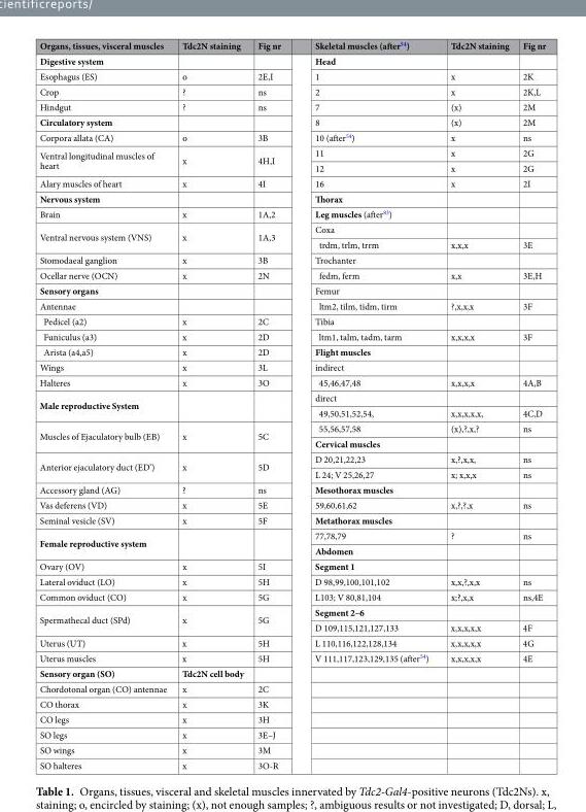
<table><thead><tr><td>Organs, tissues, visceral muscles</td><td>Tdc2N staining</td><td>Fig nr</td><td>Skeletal muscles (after<sup>54</sup>)</td><td>Tdc2N staining</td><td>Fig nr</td></tr></thead><tbody><tr><td>Digestive system</td><td></td><td></td><td>Head</td><td></td><td></td></tr><tr><td>Esophagus (ES)</td><td>o</td><td>2E,I</td><td>1</td><td>x</td><td>2K</td></tr><tr><td>Crop</td><td>?</td><td>ns</td><td>2</td><td>x</td><td>2K,L</td></tr><tr><td>Hindgut</td><td>?</td><td>ns</td><td>7</td><td>(x)</td><td>2M</td></tr><tr><td>Circulatory system</td><td></td><td></td><td>8</td><td>(x)</td><td>2M</td></tr><tr><td>Corpora allata (CA)</td><td>o</td><td>3B</td><td>10 (after<sup>54</sup>)</td><td>x</td><td>ns</td></tr><tr><td rowspan="2">Ventral longitudinal muscles of heart</td><td rowspan="2">x</td><td rowspan="2">4H,I</td><td>11</td><td>x</td><td>2G</td></tr><tr><td>12</td><td>x</td><td>2G</td></tr><tr><td>Alary muscles of heart</td><td>x</td><td>4I</td><td>16</td><td>x</td><td>2I</td></tr><tr><td>Nervous system</td><td></td><td></td><td>Thorax</td><td></td><td></td></tr><tr><td>Brain</td><td>x</td><td>1A,2</td><td>Leg muscles (after<sup>83</sup>)</td><td></td><td></td></tr><tr><td rowspan="2">Ventral nervous system (VNS)</td><td rowspan="2">x</td><td rowspan="2">1A,3</td><td>Coxa</td><td></td><td></td></tr><tr><td>trdm, trlm, trrm</td><td>x,x,x</td><td>3E</td></tr><tr><td>Stomodaeal ganglion</td><td>x</td><td>3B</td><td>Trochanter</td><td></td><td></td></tr><tr><td>Ocellar nerve (OCN)</td><td>x</td><td>2N</td><td>fedm, ferm</td><td>x,x</td><td>3E,H</td></tr><tr><td>Sensory organs</td><td></td><td></td><td>Femur</td><td></td><td></td></tr><tr><td>Antennae</td><td></td><td></td><td>ltm2, tilm, tidm, tirm</td><td>?,x,x,x</td><td>3F</td></tr><tr><td>Pedicel (a2)</td><td>x</td><td>2C</td><td>Tibia</td><td></td><td></td></tr><tr><td>Funiculus (a3)</td><td>x</td><td>2D</td><td>ltm1, talm, tadm, tarm</td><td>x,x,x,x</td><td>3F</td></tr><tr><td>Arista (a4,a5)</td><td>x</td><td>2D</td><td>Flight muscles</td><td></td><td></td></tr><tr><td>Wings</td><td>x</td><td>3L</td><td>indirect</td><td></td><td></td></tr><tr><td>Halteres</td><td>x</td><td>3O</td><td>45,46,47,48</td><td>x,x,x,x</td><td>4A,B</td></tr><tr><td rowspan="2">Male reproductive System</td><td rowspan="2"></td><td rowspan="2"></td><td>direct</td><td></td><td></td></tr><tr><td>49,50,51,52,54,</td><td>x,x,x,x,x,</td><td>4C,D</td></tr><tr><td rowspan="2">Muscles of Ejaculatory bulb (EB)</td><td rowspan="2">x</td><td rowspan="2">5C</td><td>55,56,57,58</td><td>(x),?,x,?</td><td>ns</td></tr><tr><td>Cervical muscles</td><td></td><td></td></tr><tr><td rowspan="2">Anterior ejaculatory duct (ED’)</td><td rowspan="2">x</td><td rowspan="2">5D</td><td>D 20,21,22,23</td><td>x,?,x,x,</td><td>ns</td></tr><tr><td>L 24; V 25,26,27</td><td>x; x,x,x</td><td>ns</td></tr><tr><td>Accessory gland (AG)</td><td>?</td><td>ns</td><td>Mesothorax muscles</td><td></td><td></td></tr><tr><td>Vas deferens (VD)</td><td>x</td><td>5E</td><td>59,60,61,62</td><td>x,?,?,x</td><td>ns</td></tr><tr><td>Seminal vesicle (SV)</td><td>x</td><td>5F</td><td>Metathorax muscles</td><td></td><td></td></tr><tr><td rowspan="2">Female reproductive system</td><td rowspan="2"></td><td rowspan="2"></td><td>77,78,79</td><td>?</td><td>ns</td></tr><tr><td>Abdomen</td><td></td><td></td></tr><tr><td>Ovary (OV)</td><td>x</td><td>5I</td><td>Segment 1</td><td></td><td></td></tr><tr><td>Lateral oviduct (LO)</td><td>x</td><td>5H</td><td>D 98,99,100,101,102</td><td>x,x,?,x,x</td><td>ns</td></tr><tr><td>Common oviduct (CO)</td><td>x</td><td>5G</td><td>L103; V 80,81,104</td><td>x;?,x,x</td><td>ns,4E</td></tr><tr><td rowspan="2">Spermathecal duct (SPd)</td><td rowspan="2">x</td><td rowspan="2">5G</td><td>Segment 2–6</td><td></td><td></td></tr><tr><td>D 109,115,121,127,133</td><td>x,x,x,x,x</td><td>4F</td></tr><tr><td>Uterus (UT)</td><td>x</td><td>5H</td><td>L 110,116,122,128,134</td><td>x,x,x,x,x</td><td>4G</td></tr><tr><td>Uterus muscles</td><td>x</td><td>5H</td><td>V 111,117,123,129,135 (after<sup>54</sup>)</td><td>x,x,x,x,x</td><td>4E</td></tr><tr><td>Sensory organ (SO)</td><td>Tdc2N cell body</td><td></td><td></td><td></td><td></td></tr><tr><td>Chordotonal organ (CO) antennae</td><td>x</td><td>2C</td><td></td><td></td><td></td></tr><tr><td>CO thorax</td><td>x</td><td>3K</td><td></td><td></td><td></td></tr><tr><td>CO legs</td><td>x</td><td>3H</td><td></td><td></td><td></td></tr><tr><td>SO legs</td><td>x</td><td>3E–J</td><td></td><td></td><td></td></tr><tr><td>SO wings</td><td>x</td><td>3M</td><td></td><td></td><td></td></tr><tr><td>SO halteres</td><td>x</td><td>3O-R</td><td></td><td></td><td></td></tr></tbody></table>